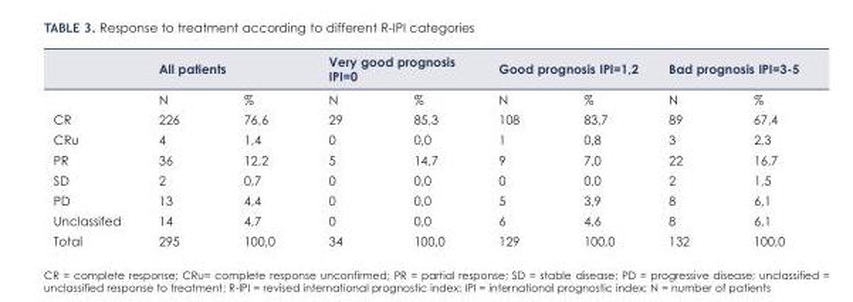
<table><thead><tr><td rowspan="2"></td><td colspan="2">All patients</td><td colspan="2">Very good prognosis IPI=0</td><td colspan="2">Good prognosis IPI=1,2</td><td colspan="2">Bad prognosis IPI=3-5</td></tr><tr><td>N</td><td>%</td><td>N</td><td>%</td><td>N</td><td>%</td><td>N</td><td>%</td></tr></thead><tbody><tr><td>CR</td><td>226</td><td>76,6</td><td>29</td><td>85,3</td><td>108</td><td>83,7</td><td>89</td><td>67,4</td></tr><tr><td>CRu</td><td>4</td><td>1,4</td><td>0</td><td>0,0</td><td>1</td><td>0,8</td><td>3</td><td>2,3</td></tr><tr><td>PR</td><td>36</td><td>12,2</td><td>5</td><td>14,7</td><td>9</td><td>7,0</td><td>22</td><td>16,7</td></tr><tr><td>SD</td><td>2</td><td>0,7</td><td>0</td><td>0,0</td><td>0</td><td>0,0</td><td>2</td><td>1,5</td></tr><tr><td>PD</td><td>13</td><td>4,4</td><td>0</td><td>0,0</td><td>5</td><td>3,9</td><td>8</td><td>6,1</td></tr><tr><td>Unclassifed</td><td>14</td><td>4,7</td><td>0</td><td>0,0</td><td>6</td><td>4,6</td><td>8</td><td>6,1</td></tr><tr><td>Total</td><td>295</td><td>100,0</td><td>34</td><td>100,0</td><td>129</td><td>100,0</td><td>132</td><td>100,0</td></tr></tbody></table>